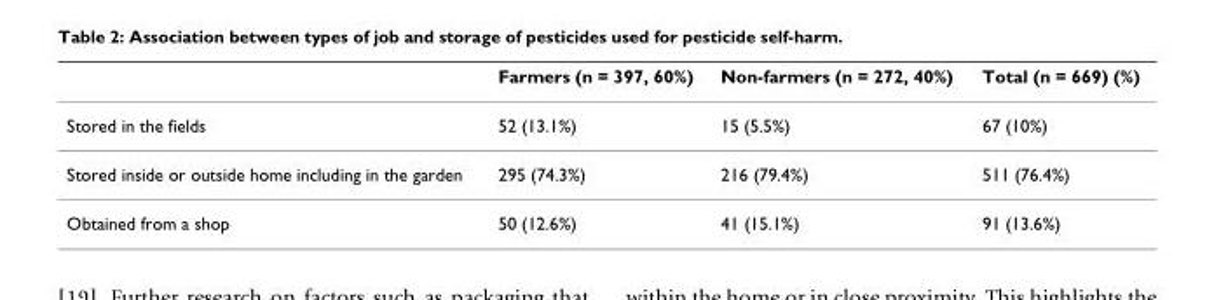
<table><thead><tr><td></td><td>Farmers (n = 397, 60%)</td><td>Non-farmers (n = 272, 40%)</td><td>Total (n = 669) (%)</td></tr></thead><tbody><tr><td>Stored in the fields</td><td>52 (13.1%)</td><td>15 (5.5%)</td><td>67 (10%)</td></tr><tr><td>Stored inside or outside home including in the garden</td><td>295 (74.3%)</td><td>216 (79.4%)</td><td>511 (76.4%)</td></tr><tr><td>Obtained from a shop</td><td>50 (12.6%)</td><td>41 (15.1%)</td><td>91 (13.6%)</td></tr></tbody></table>